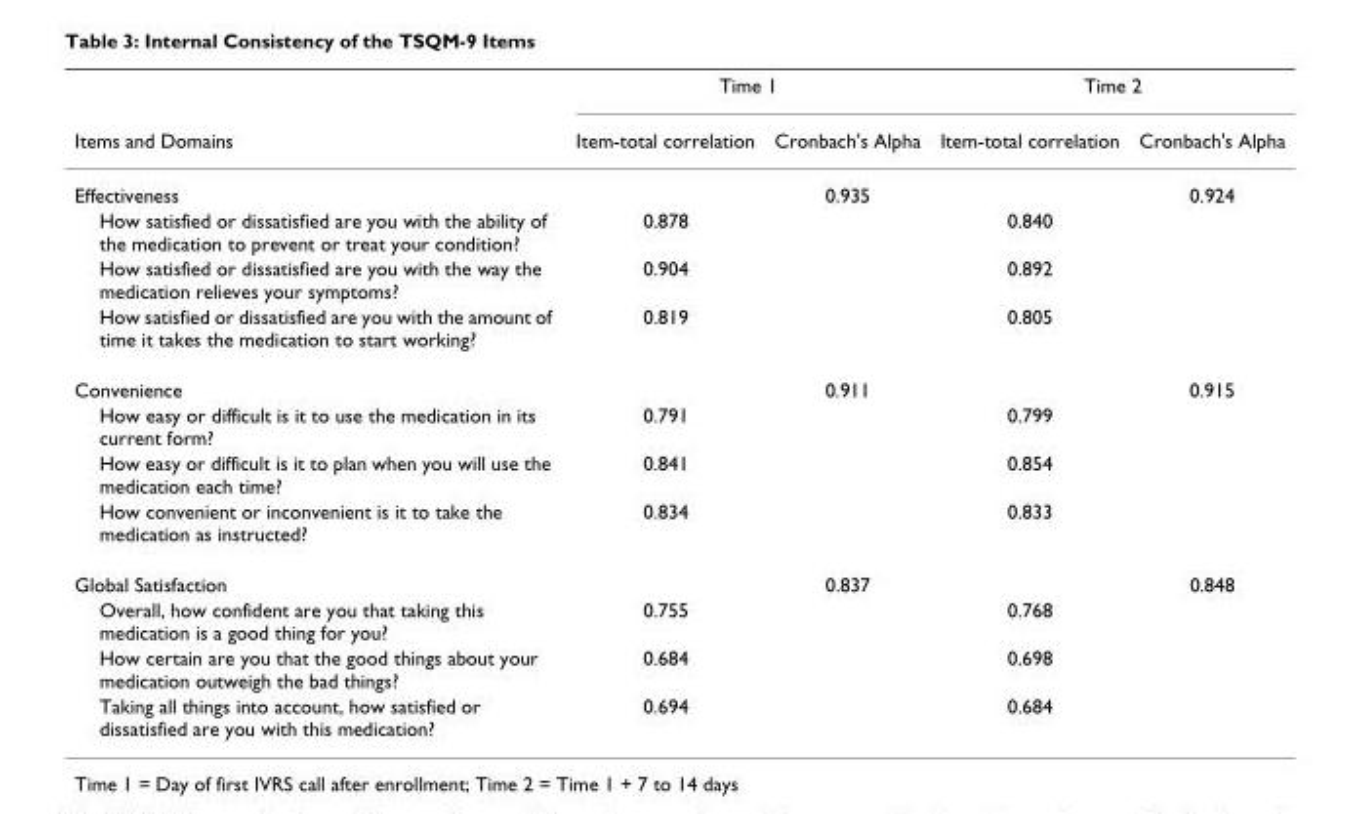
<table><thead><tr><td rowspan="2">Items and Domains</td><td colspan="2">Time 1</td><td colspan="2">Time 2</td></tr><tr><td>Item-total correlation</td><td>Cronbach&#x27;s Alpha</td><td>Item-total correlation</td><td>Cronbach&#x27;s Alpha</td></tr></thead><tbody><tr><td>Effectiveness</td><td></td><td>0.935</td><td></td><td>0.924</td></tr><tr><td>How satisfied or dissatisfied are you with the ability of the medication to prevent or treat your condition?</td><td>0.878</td><td></td><td>0.840</td><td></td></tr><tr><td>How satisfied or dissatisfied are you with the way the medication relieves your symptoms?</td><td>0.904</td><td></td><td>0.892</td><td></td></tr><tr><td>How satisfied or dissatisfied are you with the amount of time it takes the medication to start working?</td><td>0.819</td><td></td><td>0.805</td><td></td></tr><tr><td>Convenience</td><td></td><td>0.911</td><td></td><td>0.915</td></tr><tr><td>How easy or difficult is it to use the medication in its current form?</td><td>0.791</td><td></td><td>0.799</td><td></td></tr><tr><td>How easy or difficult is it to plan when you will use the medication each time?</td><td>0.841</td><td></td><td>0.854</td><td></td></tr><tr><td>How convenient or inconvenient is it to take the medication as instructed?</td><td>0.834</td><td></td><td>0.833</td><td></td></tr><tr><td>Global Satisfaction</td><td></td><td>0.837</td><td></td><td>0.848</td></tr><tr><td>Overall, how confident are you that taking this medication is a good thing for you?</td><td>0.755</td><td></td><td>0.768</td><td></td></tr><tr><td>How certain are you that the good things about your medication outweigh the bad things?</td><td>0.684</td><td></td><td>0.698</td><td></td></tr><tr><td>Taking all things into account, how satisfied or dissatisfied are you with this medication?</td><td>0.694</td><td></td><td>0.684</td><td></td></tr></tbody></table>